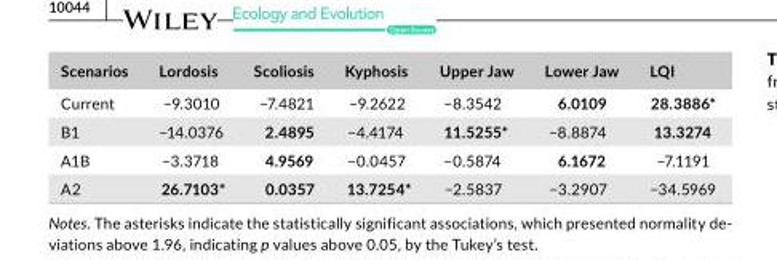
<table><thead><tr><td>Scenarios</td><td>Lordosis</td><td>Scoliosis</td><td>Kyphosis</td><td>Upper Jaw</td><td>Lower Jaw</td><td>LQI</td></tr></thead><tbody><tr><td>Current</td><td>−9.3010</td><td>−7.4821</td><td>−9.2622</td><td>−8.3542</td><td>6.0109</td><td>28.3886*</td></tr><tr><td>B1</td><td>−14.0376</td><td>2.4895</td><td>−4.4174</td><td>11.5255*</td><td>−8.8874</td><td>13.3274</td></tr><tr><td>A1B</td><td>−3.3718</td><td>4.9569</td><td>−0.0457</td><td>−0.5874</td><td>6.1672</td><td>−7.1191</td></tr><tr><td>A2</td><td>26.7103*</td><td>0.0357</td><td>13.7254*</td><td>−2.5837</td><td>−3.2907</td><td>−34.5969</td></tr></tbody></table>